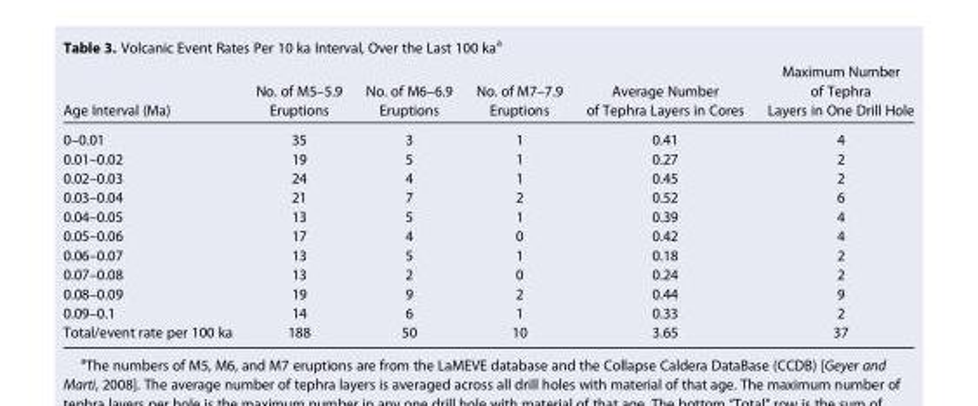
<table><thead><tr><td>Age Interval (Ma)</td><td>No. of M5–5.9 Eruptions</td><td>No. of M6–6.9 Eruptions</td><td>No. of M7–7.9 Eruptions</td><td>Average Number of Tephra Layers in Cores</td><td>Maximum Number of Tephra Layers in One Drill Hole</td></tr></thead><tbody><tr><td>0–0.01</td><td>35</td><td>3</td><td>1</td><td>0.41</td><td>4</td></tr><tr><td>0.01–0.02</td><td>19</td><td>5</td><td>1</td><td>0.27</td><td>2</td></tr><tr><td>0.02–0.03</td><td>24</td><td>4</td><td>1</td><td>0.45</td><td>2</td></tr><tr><td>0.03–0.04</td><td>21</td><td>7</td><td>2</td><td>0.52</td><td>6</td></tr><tr><td>0.04–0.05</td><td>13</td><td>5</td><td>1</td><td>0.39</td><td>4</td></tr><tr><td>0.05–0.06</td><td>17</td><td>4</td><td>0</td><td>0.42</td><td>4</td></tr><tr><td>0.06–0.07</td><td>13</td><td>5</td><td>1</td><td>0.18</td><td>2</td></tr><tr><td>0.07–0.08</td><td>13</td><td>2</td><td>0</td><td>0.24</td><td>2</td></tr><tr><td>0.08–0.09</td><td>19</td><td>9</td><td>2</td><td>0.44</td><td>9</td></tr><tr><td>0.09–0.1</td><td>14</td><td>6</td><td>1</td><td>0.33</td><td>2</td></tr><tr><td>Total/event rate per 100 ka</td><td>188</td><td>50</td><td>10</td><td>3.65</td><td>37</td></tr></tbody></table>